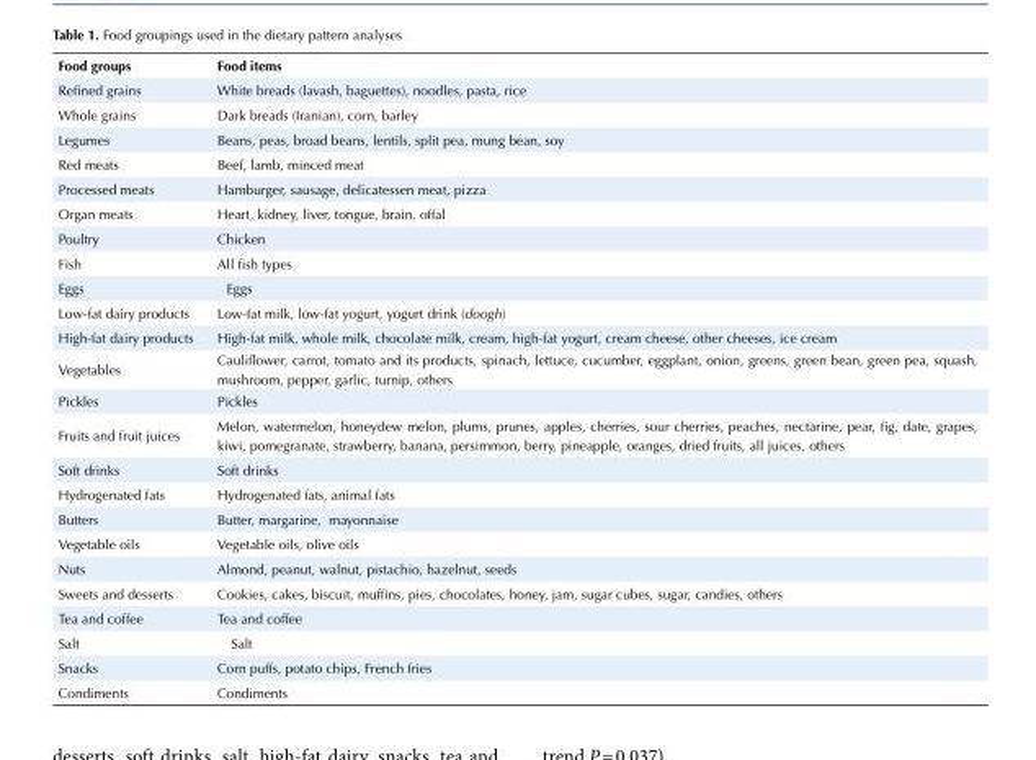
<table><tbody><tr><td>Food groups</td><td>Food items</td></tr><tr><td>Refined grains</td><td>White breads (lavash, baguettes), noodles, pasta, rice</td></tr><tr><td>Whole grains</td><td>Dark breads (Iranian), corn, barley</td></tr><tr><td>Legumes</td><td>Beans, peas, broad beans, lentils, split pea, mung bean, soy</td></tr><tr><td>Red meats</td><td>Beef, lamb, minced meat</td></tr><tr><td>Processed meats</td><td>Hamburger, sausage, delicatessen meat, pizza</td></tr><tr><td>Organ meats</td><td>Heart, kidney, liver, tongue, brain, offal</td></tr><tr><td>Poultry</td><td>Chicken</td></tr><tr><td>Fish</td><td>All fish types</td></tr><tr><td>Eggs</td><td>Eggs</td></tr><tr><td>Low-fat dairy products</td><td>Low-fat milk, low-fat yogurt, yogurt drink (doogh)</td></tr><tr><td>High-fat dairy products</td><td>High-fat milk, whole milk, chocolate milk, cream, high-fat yogurt, cream cheese, other cheeses, ice cream</td></tr><tr><td>Vegetables</td><td>Cauliflower, carrot, tomato and its products, spinach, lettuce, cucumber, eggplant, onion, greens, green bean, green pea, squash, mushroom, pepper, garlic, turnip, others</td></tr><tr><td>Pickles</td><td>Pickles</td></tr><tr><td>Fruits and fruit juices</td><td>Melon, watermelon, honeydew melon, plums, prunes, apples, cherries, sour cherries, peaches, nectarine, pear, fig, date, grapes, kiwi, pomegranate, strawberry, banana, persimmon, berry, pineapple, oranges, dried fruits, all juices, others</td></tr><tr><td>Soft drinks</td><td>Soft drinks</td></tr><tr><td>Hydrogenated fats</td><td>Hydrogenated fats, animal fats</td></tr><tr><td>Butters</td><td>Butter, margarine, mayonnaise</td></tr><tr><td>Vegetable oils</td><td>Vegetable oils, olive oils</td></tr><tr><td>Nuts</td><td>Almond, peanut, walnut, pistachio, hazelnut, seeds</td></tr><tr><td>Sweets and desserts</td><td>Cookies, cakes, biscuit, muffins, pies, chocolates, honey, jam, sugar cubes, sugar, candies, others</td></tr><tr><td>Tea and coffee</td><td>Tea and coffee</td></tr><tr><td>Salt</td><td>Salt</td></tr><tr><td>Snacks</td><td>Corn puffs, potato chips, French fries</td></tr><tr><td>Condiments</td><td>Condiments</td></tr></tbody></table>